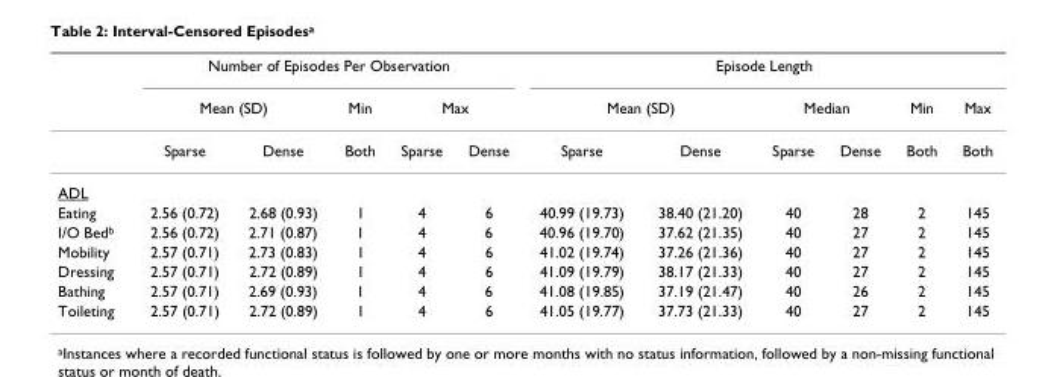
<table><thead><tr><td rowspan="3"></td><td colspan="5">Number of Episodes Per Observation</td><td colspan="6">Episode Length</td></tr><tr><td colspan="2">Mean (SD)</td><td rowspan="2">Min Both</td><td colspan="2">Max</td><td colspan="2">Mean (SD)</td><td colspan="2">Median</td><td rowspan="2">Min Both</td><td rowspan="2">Max Both</td></tr><tr><td>Sparse</td><td>Dense</td><td>Sparse</td><td>Dense</td><td>Sparse</td><td>Dense</td><td>Sparse</td><td>Dense</td></tr></thead><tbody><tr><td colspan="12">ADL</td></tr><tr><td>Eating</td><td>2.56 (0.72)</td><td>2.68 (0.93)</td><td>1</td><td>4</td><td>6</td><td>40.99 (19.73)</td><td>38.40 (21.20)</td><td>40</td><td>28</td><td>2</td><td>145</td></tr><tr><td>I/O Bed<sup>b</sup></td><td>2.56 (0.72)</td><td>2.71 (0.87)</td><td>1</td><td>4</td><td>6</td><td>40.96 (19.70)</td><td>37.62 (21.35)</td><td>40</td><td>27</td><td>2</td><td>145</td></tr><tr><td>Mobility</td><td>2.57 (0.71)</td><td>2.73 (0.83)</td><td>1</td><td>4</td><td>6</td><td>41.02 (19.74)</td><td>37.26 (21.36)</td><td>40</td><td>27</td><td>2</td><td>145</td></tr><tr><td>Dressing</td><td>2.57 (0.71)</td><td>2.72 (0.89)</td><td>1</td><td>4</td><td>6</td><td>41.09 (19.79)</td><td>38.17 (21.33)</td><td>40</td><td>27</td><td>2</td><td>145</td></tr><tr><td>Bathing</td><td>2.57 (0.71)</td><td>2.69 (0.93)</td><td>1</td><td>4</td><td>6</td><td>41.08 (19.85)</td><td>37.19 (21.47)</td><td>40</td><td>26</td><td>2</td><td>145</td></tr><tr><td>Toileting</td><td>2.57 (0.71)</td><td>2.72 (0.89)</td><td>1</td><td>4</td><td>6</td><td>41.05 (19.77)</td><td>37.73 (21.33)</td><td>40</td><td>27</td><td>2</td><td>145</td></tr></tbody></table>